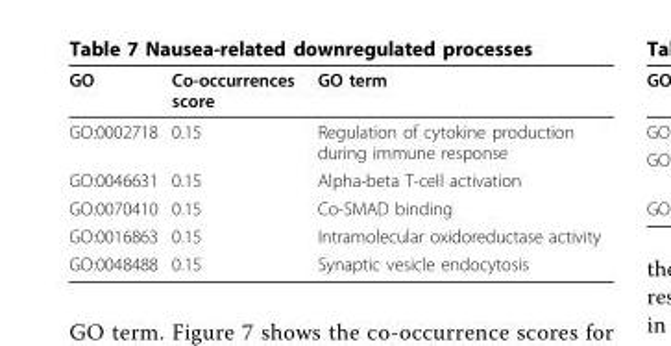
<table><thead><tr><td>GO</td><td>Co-occurrences score</td><td>GO term</td></tr></thead><tbody><tr><td>GO:0002718</td><td>0.15</td><td>Regulation of cytokine production during immune response</td></tr><tr><td>GO:0046631</td><td>0.15</td><td>Alpha-beta T-cell activation</td></tr><tr><td>GO:0070410</td><td>0.15</td><td>Co-SMAD binding</td></tr><tr><td>GO:0016863</td><td>0.15</td><td>Intramolecular oxidoreductase activity</td></tr><tr><td>GO:0048488</td><td>0.15</td><td>Synaptic vesicle endocytosis</td></tr></tbody></table>